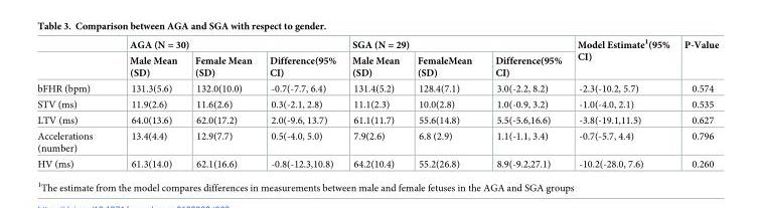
<table><thead><tr><td rowspan="2"></td><td colspan="3">AGA (N = 30)</td><td colspan="3">SGA (N = 29)</td><td rowspan="2">Model Estimate<sup>1</sup>(95% CI)</td><td rowspan="2">P-Value</td></tr><tr><td>Male Mean (SD)</td><td>Female Mean (SD)</td><td>Difference(95% CI)</td><td>Male Mean (SD)</td><td>FemaleMean (SD)</td><td>Difference(95% CI)</td></tr></thead><tbody><tr><td>bFHR (bpm)</td><td>131.3(5.6)</td><td>132.0(10.0)</td><td>-0.7(-7.7, 6.4)</td><td>131.4(5.2)</td><td>128.4(7.1)</td><td>3.0(-2.2, 8.2)</td><td>-2.3(-10.2, 5.7)</td><td>0.574</td></tr><tr><td>STV (ms)</td><td>11.9(2.6)</td><td>11.6(2.6)</td><td>0.3(-2.1, 2.8)</td><td>11.1(2.3)</td><td>10.0(2.8)</td><td>1.0(-0.9, 3.2)</td><td>-1.0(-4.0, 2.1)</td><td>0.535</td></tr><tr><td>LTV (ms)</td><td>64.0(13.6)</td><td>62.0(17.2)</td><td>2.0(-9.6, 13.7)</td><td>61.1(11.7)</td><td>55.6(14.8)</td><td>5.5(-5.6,16.6)</td><td>-3.8(-19.1,11.5)</td><td>0.627</td></tr><tr><td>Accelerations (number)</td><td>13.4(4.4)</td><td>12.9(7.7)</td><td>0.5(-4.0, 5.0)</td><td>7.9(2.6)</td><td>6.8 (2.9)</td><td>1.1(-1.1, 3.4)</td><td>-0.7(-5.7, 4.4)</td><td>0.796</td></tr><tr><td>HV (ms)</td><td>61.3(14.0)</td><td>62.1(16.6)</td><td>-0.8(-12.3,10.8)</td><td>64.2(10.4)</td><td>55.2(26.8)</td><td>8.9(-9.2,27.1)</td><td>-10.2(-28.0, 7.6)</td><td>0.260</td></tr></tbody></table>